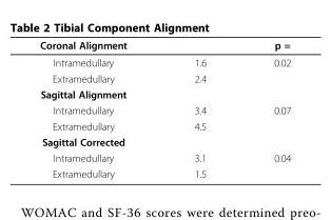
<table><thead><tr><td>Coronal Alignment</td><td></td><td>p =</td></tr></thead><tbody><tr><td>Intramedullary</td><td>1.6</td><td>0.02</td></tr><tr><td>Extramedullary</td><td>2.4</td><td></td></tr><tr><td colspan="3">Sagittal Alignment</td></tr><tr><td>Intramedullary</td><td>3.4</td><td>0.07</td></tr><tr><td>Extramedullary</td><td>4.5</td><td></td></tr><tr><td colspan="3">Sagittal Corrected</td></tr><tr><td>Intramedullary</td><td>3.1</td><td>0.04</td></tr><tr><td>Extramedullary</td><td>1.5</td><td></td></tr></tbody></table>